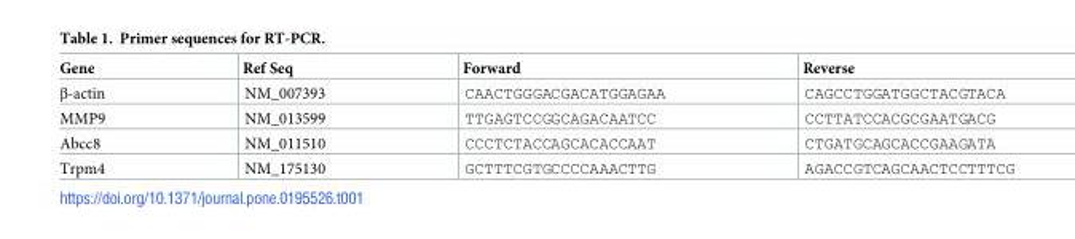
<table><thead><tr><td>Gene</td><td>Ref Seq</td><td>Forward</td><td>Reverse</td></tr></thead><tbody><tr><td>β-actin</td><td>NM_007393</td><td>CAACTGGGACGACATGGAGAA</td><td>CAGCCTGGATGGCTACGTACA</td></tr><tr><td>MMP9</td><td>NM_013599</td><td>TTGAGTCCGGCAGACAATCC</td><td>CCTTATCCACGCGAATGACG</td></tr><tr><td>Abcc8</td><td>NM_011510</td><td>CCCTCTACCAGCACACCAAT</td><td>CTGATGCAGCACCGAAGATA</td></tr><tr><td>Trpm4</td><td>NM_175130</td><td>GCTTTCGTGCCCCAAACTTG</td><td>AGACCGTCAGCAACTCCTTTCG</td></tr></tbody></table>